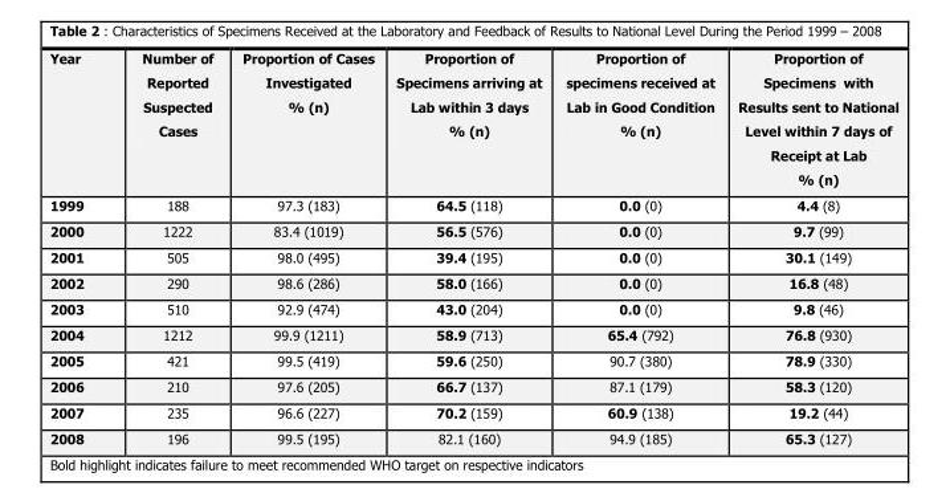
<table><thead><tr><td>Year</td><td>Number of Reported Suspected Cases</td><td>Proportion of Cases Investigated % (n)</td><td>Proportion of Specimens arriving at Lab within 3 days % (n)</td><td>Proportion of specimens received at Lab in Good Condition % (n)</td><td>Proportion of Specimens with Results sent to National Level within 7 days of Receipt at Lab % (n)</td></tr></thead><tbody><tr><td>1999</td><td>188</td><td>97.3 (183)</td><td>64.5 (118)</td><td>0.0 (0)</td><td>4.4 (8)</td></tr><tr><td>2000</td><td>1222</td><td>83.4 (1019)</td><td>56.5 (576)</td><td>0.0 (0)</td><td>9.7 (99)</td></tr><tr><td>2001</td><td>505</td><td>98.0 (495)</td><td>39.4 (195)</td><td>0.0 (0)</td><td>30.1 (149)</td></tr><tr><td>2002</td><td>290</td><td>98.6 (286)</td><td>58.0 (166)</td><td>0.0 (0)</td><td>16.8 (48)</td></tr><tr><td>2003</td><td>510</td><td>92.9 (474)</td><td>43.0 (204)</td><td>0.0 (0)</td><td>9.8 (46)</td></tr><tr><td>2004</td><td>1212</td><td>99.9 (1211)</td><td>58.9 (713)</td><td>65.4 (792)</td><td>76.8 (930)</td></tr><tr><td>2005</td><td>421</td><td>99.5 (419)</td><td>59.6 (250)</td><td>90.7 (380)</td><td>78.9 (330)</td></tr><tr><td>2006</td><td>210</td><td>97.6 (205)</td><td>66.7 (137)</td><td>87.1 (179)</td><td>58.3 (120)</td></tr><tr><td>2007</td><td>235</td><td>96.6 (227)</td><td>70.2 (159)</td><td>60.9 (138)</td><td>19.2 (44)</td></tr><tr><td>2008</td><td>196</td><td>99.5 (195)</td><td>82.1 (160)</td><td>94.9 (185)</td><td>65.3 (127)</td></tr></tbody></table>